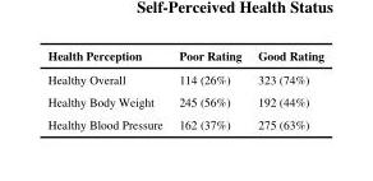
<table><thead><tr><td>Health Perception</td><td>Poor Rating</td><td>Good Rating</td></tr></thead><tbody><tr><td>Healthy Overall</td><td>114 (26%)</td><td>323 (74%)</td></tr><tr><td>Healthy Body Weight</td><td>245 (56%)</td><td>192 (44%)</td></tr><tr><td>Healthy Blood Pressure</td><td>162 (37%)</td><td>275 (63%)</td></tr></tbody></table>